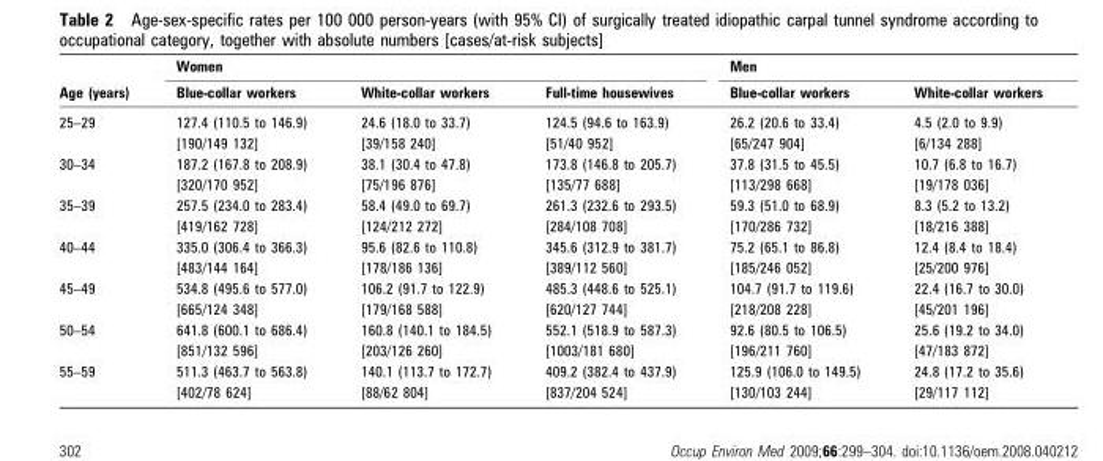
<table><thead><tr><td rowspan="2">Age (years)</td><td colspan="3">Women</td><td colspan="2">Men</td></tr><tr><td>Blue-collar workers</td><td>White-collar workers</td><td>Full-time housewives</td><td>Blue-collar workers</td><td>White-collar workers</td></tr></thead><tbody><tr><td rowspan="2">25–29</td><td>127.4 (110.5 to 146.9)</td><td>24.6 (18.0 to 33.7)</td><td>124.5 (94.6 to 163.9)</td><td>26.2 (20.6 to 33.4)</td><td>4.5 (2.0 to 9.9)</td></tr><tr><td>[190/149 132]</td><td>[39/158 240]</td><td>[51/40 952]</td><td>[65/247 904]</td><td>[6/134 288]</td></tr><tr><td rowspan="2">30–34</td><td>187.2 (167.8 to 208.9)</td><td>38.1 (30.4 to 47.8)</td><td>173.8 (146.8 to 205.7)</td><td>37.8 (31.5 to 45.5)</td><td>10.7 (6.8 to 16.7)</td></tr><tr><td>[320/170 952]</td><td>[75/196 876]</td><td>[135/77 688]</td><td>[113/298 668]</td><td>[19/178 036]</td></tr><tr><td rowspan="2">35–39</td><td>257.5 (234.0 to 283.4)</td><td>58.4 (49.0 to 69.7)</td><td>261.3 (232.6 to 293.5)</td><td>59.3 (51.0 to 68.9)</td><td>8.3 (5.2 to 13.2)</td></tr><tr><td>[419/162 728]</td><td>[124/212 272]</td><td>[284/108 708]</td><td>[170/286 732]</td><td>[18/216 388]</td></tr><tr><td rowspan="2">40–44</td><td>335.0 (306.4 to 366.3)</td><td>95.6 (82.6 to 110.8)</td><td>345.6 (312.9 to 381.7)</td><td>75.2 (65.1 to 86.8)</td><td>12.4 (8.4 to 18.4)</td></tr><tr><td>[483/144 164]</td><td>[178/186 136]</td><td>[389/112 560]</td><td>[185/246 052]</td><td>[25/200 976]</td></tr><tr><td rowspan="2">45–49</td><td>534.8 (495.6 to 577.0)</td><td>106.2 (91.7 to 122.9)</td><td>485.3 (448.6 to 525.1)</td><td>104.7 (91.7 to 119.6)</td><td>22.4 (16.7 to 30.0)</td></tr><tr><td>[665/124 348]</td><td>[179/168 588]</td><td>[620/127 744]</td><td>[218/208 228]</td><td>[45/201 196]</td></tr><tr><td rowspan="2">50–54</td><td>641.8 (600.1 to 686.4)</td><td>160.8 (140.1 to 184.5)</td><td>552.1 (518.9 to 587.3)</td><td>92.6 (80.5 to 106.5)</td><td>25.6 (19.2 to 34.0)</td></tr><tr><td>[851/132 596]</td><td>[203/126 260]</td><td>[1003/181 680]</td><td>[196/211 760]</td><td>[47/183 872]</td></tr><tr><td rowspan="2">55–59</td><td>511.3 (463.7 to 563.8)</td><td>140.1 (113.7 to 172.7)</td><td>409.2 (382.4 to 437.9)</td><td>125.9 (106.0 to 149.5)</td><td>24.8 (17.2 to 35.6)</td></tr><tr><td>[402/78 624]</td><td>[88/62 804]</td><td>[837/204 524]</td><td>[130/103 244]</td><td>[29/117 112]</td></tr></tbody></table>